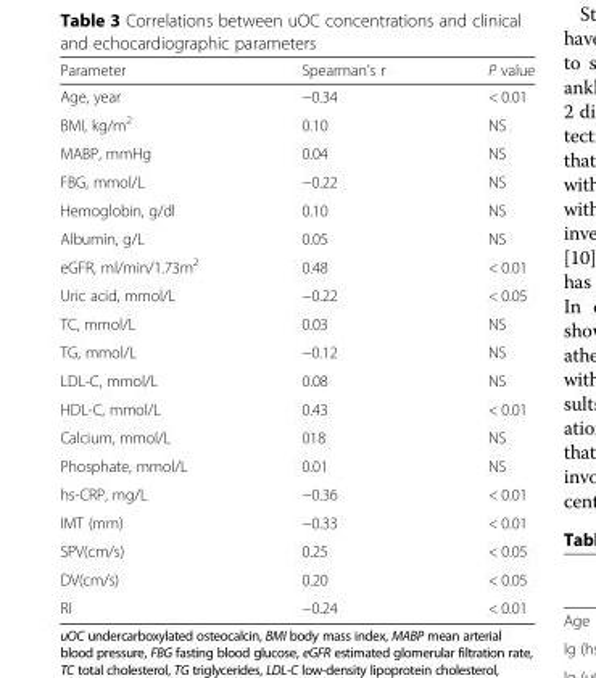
<table><thead><tr><td>Parameter</td><td>Spearman’s r</td><td>P value</td></tr></thead><tbody><tr><td>Age, year</td><td>−0.34</td><td>&lt; 0.01</td></tr><tr><td>BMI, kg/m<sup>2</sup></td><td>0.10</td><td>NS</td></tr><tr><td>MABP, mmHg</td><td>0.04</td><td>NS</td></tr><tr><td>FBG, mmol/L</td><td>−0.22</td><td>NS</td></tr><tr><td>Hemoglobin, g/dl</td><td>0.10</td><td>NS</td></tr><tr><td>Albumin, g/L</td><td>0.05</td><td>NS</td></tr><tr><td>eGFR, ml/min/1.73m<sup>2</sup></td><td>0.48</td><td>&lt; 0.01</td></tr><tr><td>Uric acid, mmol/L</td><td>−0.22</td><td>&lt; 0.05</td></tr><tr><td>TC, mmol/L</td><td>0.03</td><td>NS</td></tr><tr><td>TG, mmol/L</td><td>−0.12</td><td>NS</td></tr><tr><td>LDL-C, mmol/L</td><td>0.08</td><td>NS</td></tr><tr><td>HDL-C, mmol/L</td><td>0.43</td><td>&lt; 0.01</td></tr><tr><td>Calcium, mmol/L</td><td>018</td><td>NS</td></tr><tr><td>Phosphate, mmol/L</td><td>0.01</td><td>NS</td></tr><tr><td>hs-CRP, mg/L</td><td>−0.36</td><td>&lt; 0.01</td></tr><tr><td>IMT (mm)</td><td>−0.33</td><td>&lt; 0.01</td></tr><tr><td>SPV(cm/s)</td><td>0.25</td><td>&lt; 0.05</td></tr><tr><td>DV(cm/s)</td><td>0.20</td><td>&lt; 0.05</td></tr><tr><td>RI</td><td>−0.24</td><td>&lt; 0.01</td></tr></tbody></table>